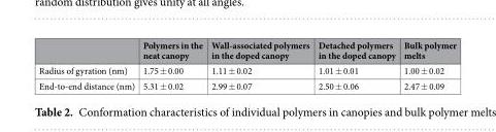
<table><thead><tr><td></td><td>Polymers in the neat canopy</td><td>Wall-associated polymers in the doped canopy</td><td>Detached polymers in the doped canopy</td><td>Bulk polymer melts</td></tr></thead><tbody><tr><td>Radius of gyration (nm)</td><td>1.75 ± 0.00</td><td>1.11 ± 0.02</td><td>1.01 ± 0.01</td><td>1.00 ± 0.02</td></tr><tr><td>End-to-end distance (nm)</td><td>5.31 ± 0.02</td><td>2.99 ± 0.07</td><td>2.50 ± 0.06</td><td>2.47 ± 0.09</td></tr></tbody></table>